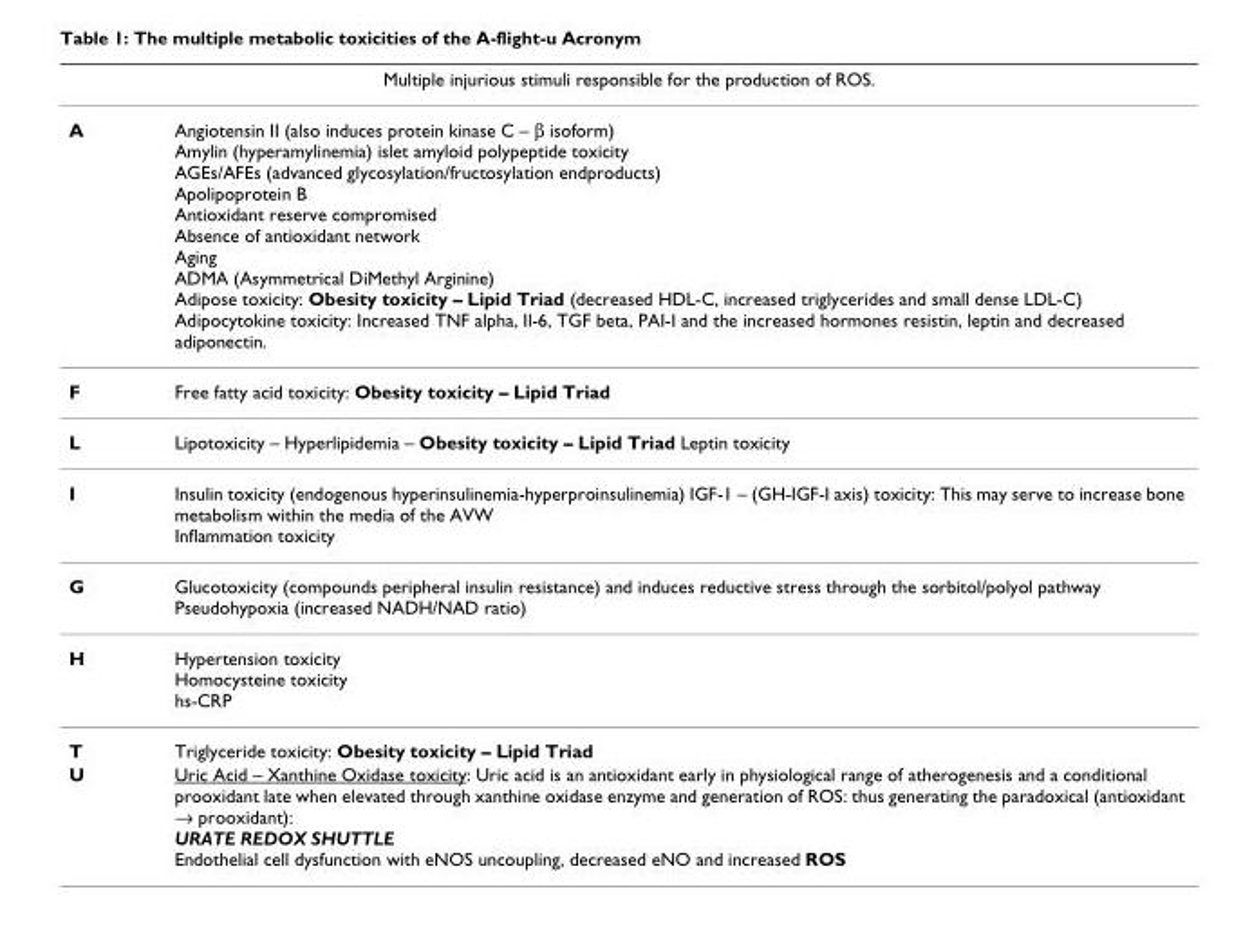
<table><thead><tr><td colspan="2">Multiple injurious stimuli responsible for the production of ROS.</td></tr><tr><td>A</td><td>Angiotensin II (also induces protein kinase C – β isoform) Amylin (hyperamylinemia) islet amyloid polypeptide toxicity AGEs/AFEs (advanced glycosylation/fructosylation endproducts) Apolipoprotein B Antioxidant reserve compromised Absence of antioxidant network Aging ADMA (Asymmetrical DiMethyl Arginine) Adipose toxicity: Obesity toxicity – Lipid Triad (decreased HDL-C, increased triglycerides and small dense LDL-C) Adipocytokine toxicity: Increased TNF alpha, Il-6, TGF beta, PAI-I and the increased hormones resistin, leptin and decreased adiponectin.</td></tr></thead><tbody><tr><td>F</td><td>Free fatty acid toxicity: Obesity toxicity – Lipid Triad</td></tr><tr><td>L</td><td>Lipotoxicity – Hyperlipidemia – Obesity toxicity – Lipid Triad Leptin toxicity</td></tr><tr><td>I</td><td>Insulin toxicity (endogenous hyperinsulinemia-hyperproinsulinemia) IGF-1 – (GH-IGF-I axis) toxicity: This may serve to increase bone metabolism within the media of the AVW Inflammation toxicity</td></tr><tr><td>G</td><td>Glucotoxicity (compounds peripheral insulin resistance) and induces reductive stress through the sorbitol/polyol pathway Pseudohypoxia (increased NADH/NAD ratio)</td></tr><tr><td>H</td><td>Hypertension toxicity Homocysteine toxicity hs-CRP</td></tr><tr><td>T</td><td>Triglyceride toxicity: Obesity toxicity – Lipid Triad</td></tr><tr><td>U</td><td>Uric Acid – Xanthine Oxidase toxicity: Uric acid is an antioxidant early in physiological range of atherogenesis and a conditional prooxidant late when elevated through xanthine oxidase enzyme and generation of ROS: thus generating the paradoxical (antioxidant → prooxidant): URATE REDOX SHUTTLE Endothelial cell dysfunction with eNOS uncoupling, decreased eNO and increased ROS</td></tr></tbody></table>